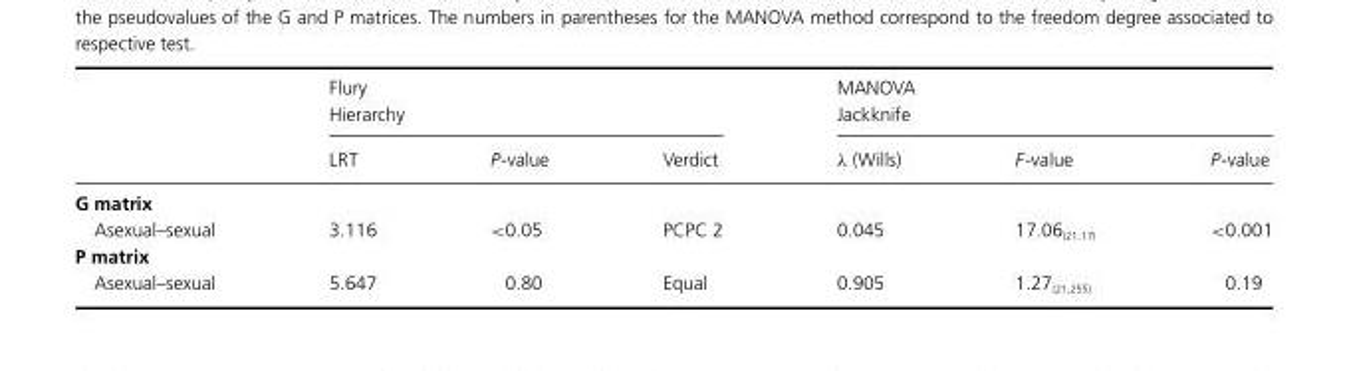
<table><thead><tr><td rowspan="2"></td><td colspan="3">Flury Hierarchy</td><td colspan="3">MANOVA Jackknife</td></tr><tr><td>LRT</td><td>P-value</td><td>Verdict</td><td>λ (Wills)</td><td>F-value</td><td>P-value</td></tr></thead><tbody><tr><td colspan="7">G matrix</td></tr><tr><td>Asexual–sexual</td><td>3.116</td><td>&lt;0.05</td><td>PCPC 2</td><td>0.045</td><td>17.06<sub>(21,17)</sub></td><td>&lt;0.001</td></tr><tr><td colspan="7">P matrix</td></tr><tr><td>Asexual–sexual</td><td>5.647</td><td>0.80</td><td>Equal</td><td>0.905</td><td>1.27<sub>(21,255)</sub></td><td>0.19</td></tr></tbody></table>